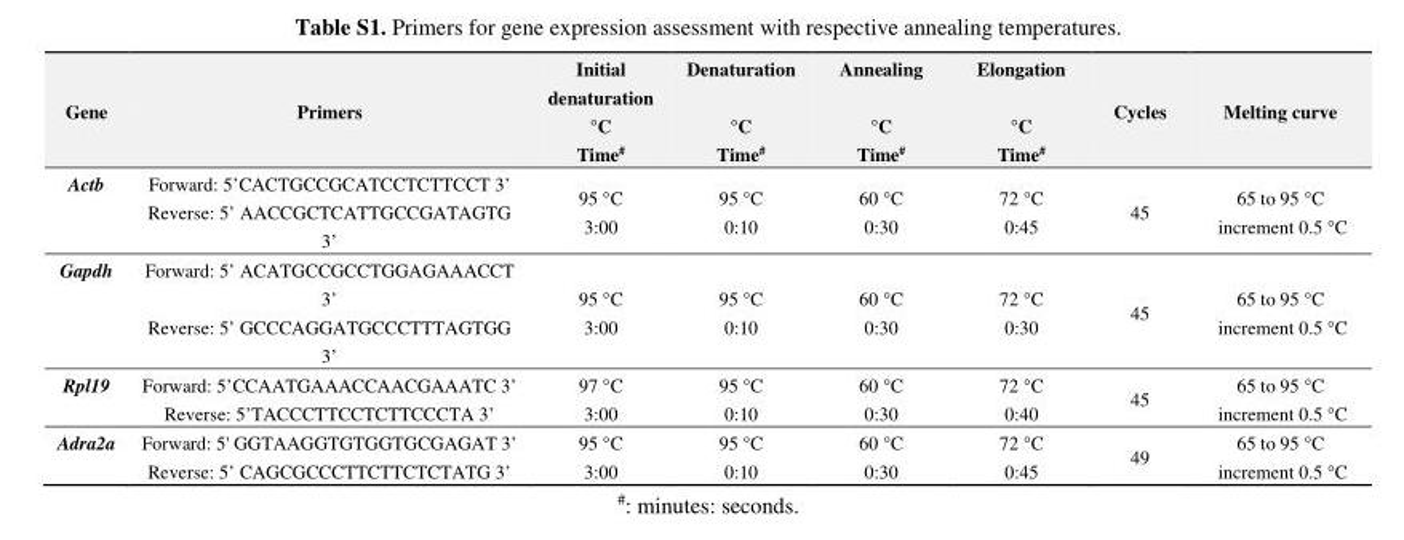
<table><thead><tr><td>Gene</td><td>Primers</td><td>Initial denaturation °C Time<sup>#</sup></td><td>Denaturation °C Time<sup>#</sup></td><td>Annealing °C Time<sup>#</sup></td><td>Elongation °C Time<sup>#</sup></td><td>Cycles</td><td>Melting curve</td></tr></thead><tbody><tr><td>Actb</td><td>Forward: 5’CACTGCCGCATCCTCTTCCT 3’ Reverse: 5’ AACCGCTCATTGCCGATAGTG 3’</td><td>95 °C 3:00</td><td>95 °C 0:10</td><td>60 °C 0:30</td><td>72 °C 0:45</td><td>45</td><td>65 to 95 °C increment 0.5 °C</td></tr><tr><td>Gapdh</td><td>Forward: 5’ ACATGCCGCCTGGAGAAACCT 3’ Reverse: 5’ GCCCAGGATGCCCTTTAGTGG 3’</td><td>95 °C 3:00</td><td>95 °C 0:10</td><td>60 °C 0:30</td><td>72 °C 0:30</td><td>45</td><td>65 to 95 °C increment 0.5 °C</td></tr><tr><td>Rpl19</td><td>Forward: 5’CCAATGAAACCAACGAAATC 3’ Reverse: 5’TACCCTTCCTCTTCCCTA 3’</td><td>97 °C 3:00</td><td>95 °C 0:10</td><td>60 °C 0:30</td><td>72 °C 0:40</td><td>45</td><td>65 to 95 °C increment 0.5 °C</td></tr><tr><td>Adra2a</td><td>Forward: 5&#x27; GGTAAGGTGTGGTGCGAGAT 3’ Reverse: 5’ CAGCGCCCTTCTTCTCTATG 3’</td><td>95 °C 3:00</td><td>95 °C 0:10</td><td>60 °C 0:30</td><td>72 °C 0:45</td><td>49</td><td>65 to 95 °C increment 0.5 °C</td></tr></tbody></table>